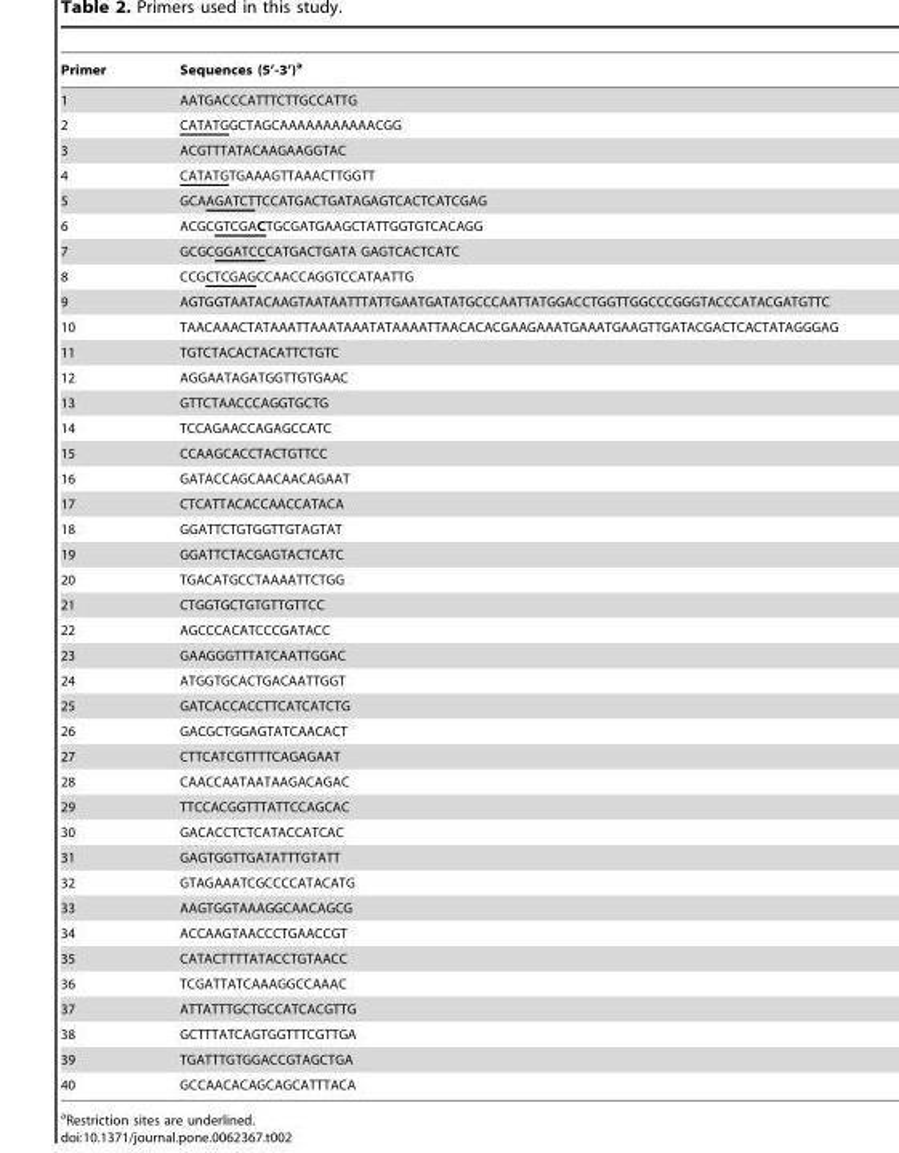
<table><thead><tr><td>Primer</td><td>Sequences (5’-3’)<sup>a</sup></td></tr></thead><tbody><tr><td>1</td><td>AATGACCCATTTCTTGCCATTG</td></tr><tr><td>2</td><td>CATATGGCTAGCAAAAAAAAAAACGG</td></tr><tr><td>3</td><td>ACGTTTATACAAGAAGGTAC</td></tr><tr><td>4</td><td>CATATGTGAAAGTTAAACTTGGTT</td></tr><tr><td>5</td><td>GCAAGATCTTCCATGACTGATAGAGTCACTCATCGAG</td></tr><tr><td>6</td><td>ACGCGTCGACTGCGATGAAGCTATTGGTGTCACAGG</td></tr><tr><td>7</td><td>GCGCGGATCCCATGACTGATA GAGTCACTCATC</td></tr><tr><td>8</td><td>CCGCTCGAGCCAACCAGGTCCATAATTG</td></tr><tr><td>9</td><td>AGTGGTAATACAAGTAATAATTTATTGAATGATATGCCCAATTATGGACCTGGTTGGCCCGGGTACCCATACGATGTTC</td></tr><tr><td>10</td><td>TAACAAACTATAAATTAAATAAATATAAAATTAACACACGAAGAAATGAAATGAAGTTGATACGACTCACTATAGGGAG</td></tr><tr><td>11</td><td>TGTCTACACTACATTCTGTC</td></tr><tr><td>12</td><td>AGGAATAGATGGTTGTGAAC</td></tr><tr><td>13</td><td>GTTCTAACCCAGGTGCTG</td></tr><tr><td>14</td><td>TCCAGAACCAGAGCCATC</td></tr><tr><td>15</td><td>CCAAGCACCTACTGTTCC</td></tr><tr><td>16</td><td>GATACCAGCAACAACAGAAT</td></tr><tr><td>17</td><td>CTCATTACACCAACCATACA</td></tr><tr><td>18</td><td>GGATTCTGTGGTTGTAGTAT</td></tr><tr><td>19</td><td>GGATTCTACGAGTACTCATC</td></tr><tr><td>20</td><td>TGACATGCCTAAAATTCTGG</td></tr><tr><td>21</td><td>CTGGTGCTGTGTTGTTCC</td></tr><tr><td>22</td><td>AGCCCACATCCCGATACC</td></tr><tr><td>23</td><td>GAAGGGTTTATCAATTGGAC</td></tr><tr><td>24</td><td>ATGGTGCACTGACAATTGGT</td></tr><tr><td>25</td><td>GATCACCACCTTCATCATCTG</td></tr><tr><td>26</td><td>GACGCTGGAGTATCAACACT</td></tr><tr><td>27</td><td>CTTCATCGTTTTCAGAGAAT</td></tr><tr><td>28</td><td>CAACCAATAATAAGACAGAC</td></tr><tr><td>29</td><td>TTCCACGGTTTATTCCAGCAC</td></tr><tr><td>30</td><td>GACACCTCTCATACCATCAC</td></tr><tr><td>31</td><td>GAGTGGTTGATATTTGTATT</td></tr><tr><td>32</td><td>GTAGAAATCGCCCCATACATG</td></tr><tr><td>33</td><td>AAGTGGTAAAGGCAACAGCG</td></tr><tr><td>34</td><td>ACCAAGTAACCCTGAACCGT</td></tr><tr><td>35</td><td>CATACTTTTATACCTGTAACC</td></tr><tr><td>36</td><td>TCGATTATCAAAGGCCAAAC</td></tr><tr><td>37</td><td>ATTATTTGCTGCCATCACGTTG</td></tr><tr><td>38</td><td>GCTTTATCAGTGGTTTCGTTGA</td></tr><tr><td>39</td><td>TGATTTGTGGACCGTAGCTGA</td></tr><tr><td>40</td><td>GCCAACACAGCAGCATTTACA</td></tr></tbody></table>